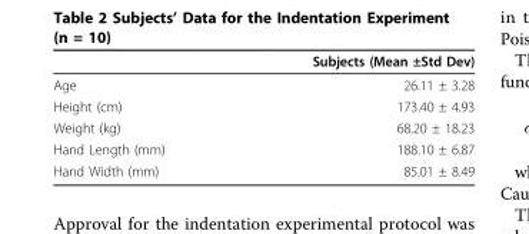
<table><thead><tr><td></td><td>Subjects (Mean ±Std Dev)</td></tr></thead><tbody><tr><td>Age</td><td>26.11 ± 3.28</td></tr><tr><td>Height (cm)</td><td>173.40 ± 4.93</td></tr><tr><td>Weight (kg)</td><td>68.20 ± 18.23</td></tr><tr><td>Hand Length (mm)</td><td>188.10 ± 6.87</td></tr><tr><td>Hand Width (mm)</td><td>85.01 ± 8.49</td></tr></tbody></table>